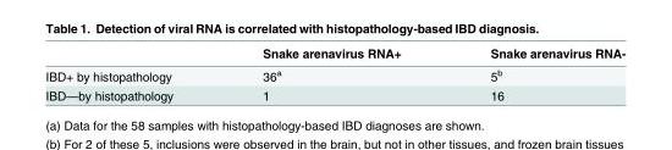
<table><thead><tr><td></td><td>Snake arenavirus RNA+</td><td>Snake arenavirus RNA-</td></tr></thead><tbody><tr><td>IBD+ by histopathology</td><td>36<sup>a</sup></td><td>5<sup>b</sup></td></tr><tr><td>IBD—by histopathology</td><td>1</td><td>16</td></tr></tbody></table>